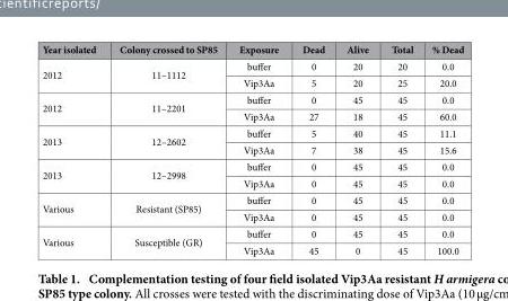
<table><thead><tr><td>Year isolated</td><td>Colony crossed to SP85</td><td>Exposure</td><td>Dead</td><td>Alive</td><td>Total</td><td>% Dead</td></tr></thead><tbody><tr><td rowspan="2">2012</td><td rowspan="2">11–1112</td><td>buffer</td><td>0</td><td>20</td><td>20</td><td>0.0</td></tr><tr><td>Vip3Aa</td><td>5</td><td>20</td><td>25</td><td>20.0</td></tr><tr><td rowspan="2">2012</td><td rowspan="2">11–2201</td><td>buffer</td><td>0</td><td>45</td><td>45</td><td>0.0</td></tr><tr><td>Vip3Aa</td><td>27</td><td>18</td><td>45</td><td>60.0</td></tr><tr><td rowspan="2">2013</td><td rowspan="2">12–2602</td><td>buffer</td><td>5</td><td>40</td><td>45</td><td>11.1</td></tr><tr><td>Vip3Aa</td><td>7</td><td>38</td><td>45</td><td>15.6</td></tr><tr><td rowspan="2">2013</td><td rowspan="2">12–2998</td><td>buffer</td><td>0</td><td>45</td><td>45</td><td>0.0</td></tr><tr><td>Vip3Aa</td><td>0</td><td>45</td><td>45</td><td>0.0</td></tr><tr><td rowspan="2">Various</td><td rowspan="2">Resistant (SP85)</td><td>buffer</td><td>0</td><td>45</td><td>45</td><td>0.0</td></tr><tr><td>Vip3Aa</td><td>0</td><td>45</td><td>45</td><td>0.0</td></tr><tr><td rowspan="2">Various</td><td rowspan="2">Susceptible (GR)</td><td>buffer</td><td>0</td><td>45</td><td>45</td><td>0.0</td></tr><tr><td>Vip3Aa</td><td>45</td><td>0</td><td>45</td><td>100.0</td></tr></tbody></table>